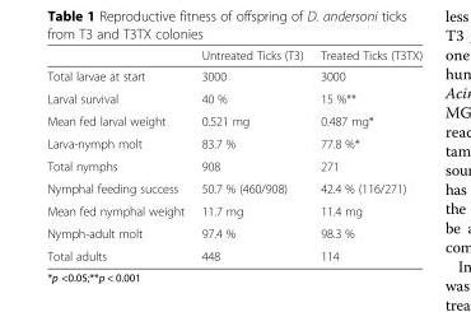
<table><thead><tr><td></td><td>Untreated Ticks (T3)</td><td>Treated Ticks (T3TX)</td></tr></thead><tbody><tr><td>Total larvae at start</td><td>3000</td><td>3000</td></tr><tr><td>Larval survival</td><td>40 %</td><td>15 %**</td></tr><tr><td>Mean fed larval weight</td><td>0.521 mg</td><td>0.487 mg*</td></tr><tr><td>Larva-nymph molt</td><td>83.7 %</td><td>77.8 %*</td></tr><tr><td>Total nymphs</td><td>908</td><td>271</td></tr><tr><td>Nymphal feeding success</td><td>50.7 % (460/908)</td><td>42.4 % (116/271)</td></tr><tr><td>Mean fed nymphal weight</td><td>11.7 mg</td><td>11.4 mg</td></tr><tr><td>Nymph-adult molt</td><td>97.4 %</td><td>98.3 %</td></tr><tr><td>Total adults</td><td>448</td><td>114</td></tr></tbody></table>